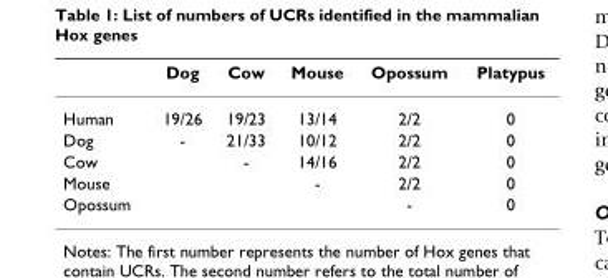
<table><thead><tr><td></td><td>Dog</td><td>Cow</td><td>Mouse</td><td>Opossum</td><td>Platypus</td></tr></thead><tbody><tr><td>Human</td><td>19/26</td><td>19/23</td><td>13/14</td><td>2/2</td><td>0</td></tr><tr><td>Dog</td><td>-</td><td>21/33</td><td>10/12</td><td>2/2</td><td>0</td></tr><tr><td>Cow</td><td></td><td>-</td><td>14/16</td><td>2/2</td><td>0</td></tr><tr><td>Mouse</td><td></td><td></td><td>-</td><td>2/2</td><td>0</td></tr><tr><td>Opossum</td><td></td><td></td><td></td><td>-</td><td>0</td></tr></tbody></table>